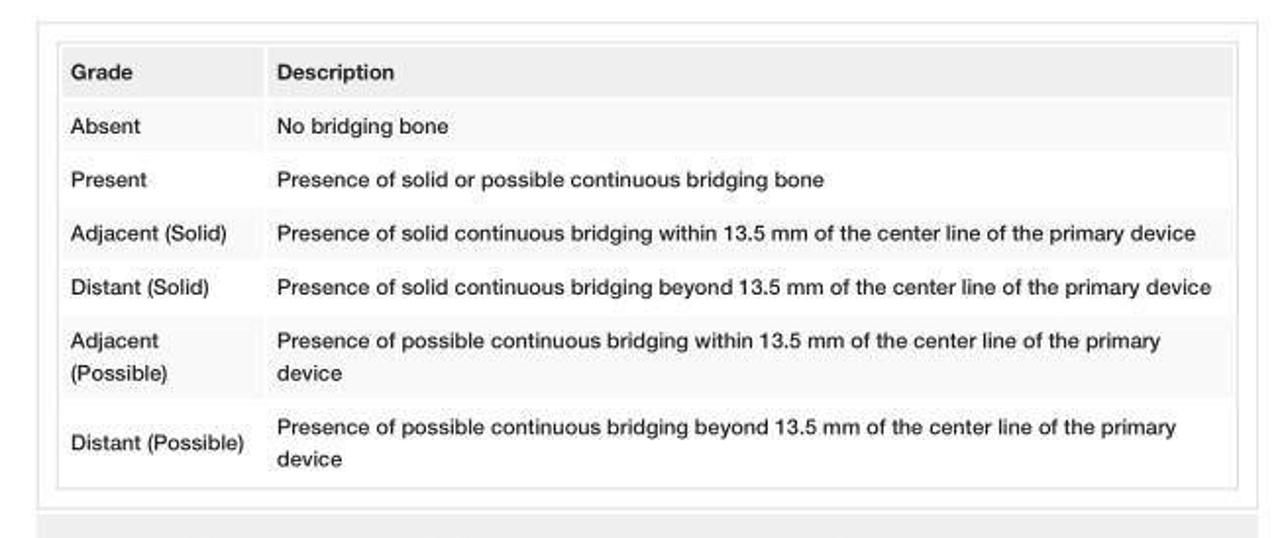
<table><tbody><tr><td>Grade</td><td>Description</td></tr><tr><td>Absent</td><td>No bridging bone</td></tr><tr><td>Present</td><td>Presence of solid or possible continuous bridging bone</td></tr><tr><td>Adjacent (Solid)</td><td>Presence of solid continuous bridging within 13.5 mm of the center line of the primary device</td></tr><tr><td>Distant (Solid)</td><td>Presence of solid continuous bridging beyond 13.5 mm of the center line of the primary device</td></tr><tr><td>Adjacent (Possible)</td><td>Presence of possible continuous bridging within 13.5 mm of the center line of the primary device</td></tr><tr><td>Distant (Possible)</td><td>Presence of possible continuous bridging beyond 13.5 mm of the center line of the primary device</td></tr></tbody></table>